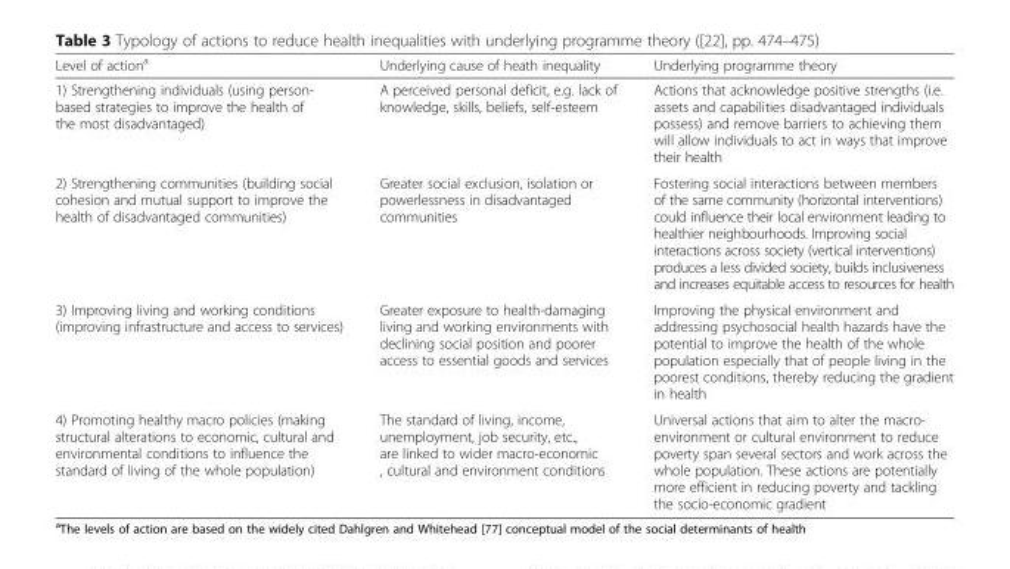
<table><thead><tr><td>Level of action<sup>a</sup></td><td>Underlying cause of heath inequality</td><td>Underlying programme theory</td></tr></thead><tbody><tr><td>1) Strengthening individuals (using person- based strategies to improve the health of the most disadvantaged)</td><td>A perceived personal deficit, e.g. lack of knowledge, skills, beliefs, self-esteem</td><td>Actions that acknowledge positive strengths (i.e. assets and capabilities disadvantaged individuals possess) and remove barriers to achieving them will allow individuals to act in ways that improve their health</td></tr><tr><td>2) Strengthening communities (building social cohesion and mutual support to improve the health of disadvantaged communities)</td><td>Greater social exclusion, isolation or powerlessness in disadvantaged communities</td><td>Fostering social interactions between members of the same community (horizontal interventions) could influence their local environment leading to healthier neighbourhoods. Improving social interactions across society (vertical interventions) produces a less divided society, builds inclusiveness and increases equitable access to resources for health</td></tr><tr><td>3) Improving living and working conditions (improving infrastructure and access to services)</td><td>Greater exposure to health-damaging living and working environments with declining social position and poorer access to essential goods and services</td><td>Improving the physical environment and addressing psychosocial health hazards have the potential to improve the health of the whole population especially that of people living in the poorest conditions, thereby reducing the gradient in health</td></tr><tr><td>4) Promoting healthy macro policies (making structural alterations to economic, cultural and environmental conditions to influence the standard of living of the whole population)</td><td>The standard of living, income, unemployment, job security, etc., are linked to wider macro-economic , cultural and environment conditions</td><td>Universal actions that aim to alter the macro- environment or cultural environment to reduce poverty span several sectors and work across the whole population. These actions are potentially more efficient in reducing poverty and tackling the socio-economic gradient</td></tr></tbody></table>